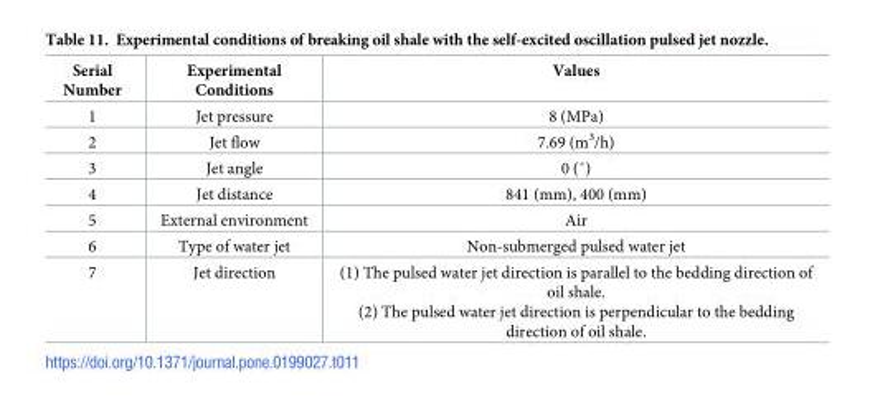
<table><thead><tr><td>Serial Number</td><td>Experimental Conditions</td><td>Values</td></tr></thead><tbody><tr><td>1</td><td>Jet pressure</td><td>8 (MPa)</td></tr><tr><td>2</td><td>Jet flow</td><td>7.69 (m<sup>3</sup>/h)</td></tr><tr><td>3</td><td>Jet angle</td><td>0 (˚)</td></tr><tr><td>4</td><td>Jet distance</td><td>841 (mm), 400 (mm)</td></tr><tr><td>5</td><td>External environment</td><td>Air</td></tr><tr><td>6</td><td>Type of water jet</td><td>Non-submerged pulsed water jet</td></tr><tr><td>7</td><td>Jet direction</td><td>(1) The pulsed water jet direction is parallel to the bedding direction of oil shale. (2) The pulsed water jet direction is perpendicular to the bedding direction of oil shale.</td></tr></tbody></table>